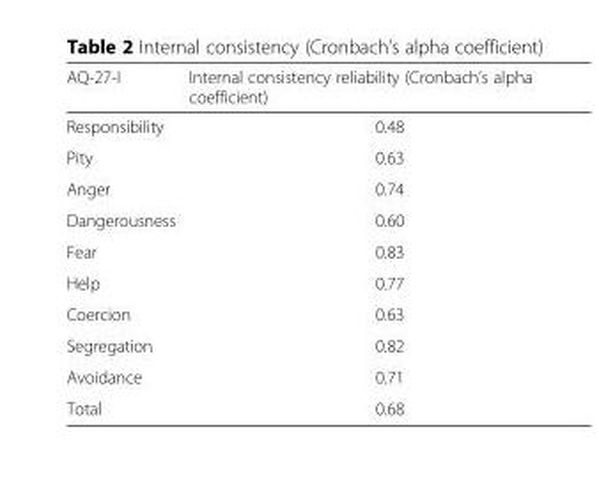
<table><thead><tr><td>AQ-27-I</td><td>Internal consistency reliability (Cronbach’s alpha coefficient)</td></tr></thead><tbody><tr><td>Responsibility</td><td>0.48</td></tr><tr><td>Pity</td><td>0.63</td></tr><tr><td>Anger</td><td>0.74</td></tr><tr><td>Dangerousness</td><td>0.60</td></tr><tr><td>Fear</td><td>0.83</td></tr><tr><td>Help</td><td>0.77</td></tr><tr><td>Coercion</td><td>0.63</td></tr><tr><td>Segregation</td><td>0.82</td></tr><tr><td>Avoidance</td><td>0.71</td></tr><tr><td>Total</td><td>0.68</td></tr></tbody></table>